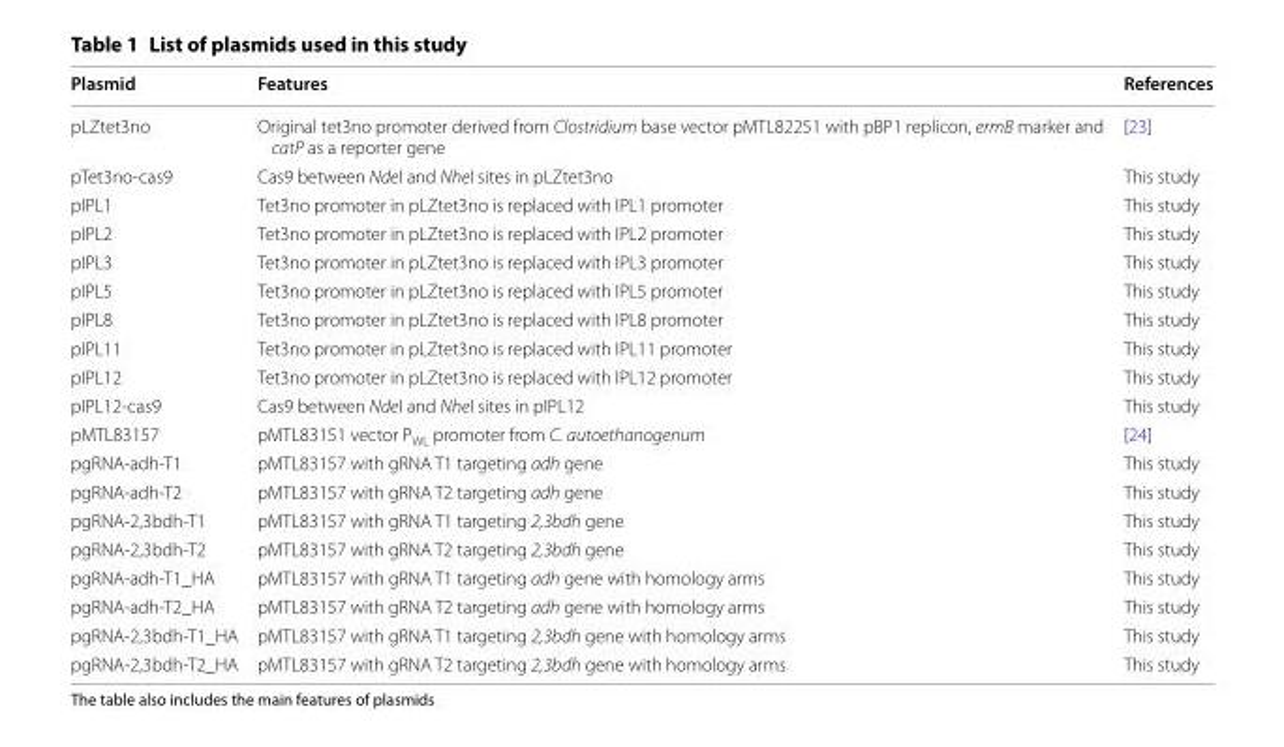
<table><thead><tr><td>Plasmid</td><td>Features</td><td>References</td></tr></thead><tbody><tr><td>pLZtet3no</td><td>Original tet3no promoter derived from Clostridium base vector pMTL82251 with pBP1 replicon, ermB marker and catP as a reporter gene</td><td>[23]</td></tr><tr><td>pTet3no-cas9</td><td>Cas9 between NdeI and NheI sites in pLZtet3no</td><td>This study</td></tr><tr><td>pIPL1</td><td>Tet3no promoter in pLZtet3no is replaced with IPL1 promoter</td><td>This study</td></tr><tr><td>pIPL2</td><td>Tet3no promoter in pLZtet3no is replaced with IPL2 promoter</td><td>This study</td></tr><tr><td>pIPL3</td><td>Tet3no promoter in pLZtet3no is replaced with IPL3 promoter</td><td>This study</td></tr><tr><td>pIPL5</td><td>Tet3no promoter in pLZtet3no is replaced with IPL5 promoter</td><td>This study</td></tr><tr><td>pIPL8</td><td>Tet3no promoter in pLZtet3no is replaced with IPL8 promoter</td><td>This study</td></tr><tr><td>pIPL11</td><td>Tet3no promoter in pLZtet3no is replaced with IPL11 promoter</td><td>This study</td></tr><tr><td>pIPL12</td><td>Tet3no promoter in pLZtet3no is replaced with IPL12 promoter</td><td>This study</td></tr><tr><td>pIPL12-cas9</td><td>Cas9 between NdeI and NheI sites in pIPL12</td><td>This study</td></tr><tr><td>pMTL83157</td><td>pMTL83151 vector P<sub>WL</sub> promoter from C. autoethanogenum</td><td>[24]</td></tr><tr><td>pgRNA-adh-T1</td><td>pMTL83157 with gRNA T1 targeting adh gene</td><td>This study</td></tr><tr><td>pgRNA-adh-T2</td><td>pMTL83157 with gRNA T2 targeting adh gene</td><td>This study</td></tr><tr><td>pgRNA-2,3bdh-T1</td><td>pMTL83157 with gRNA T1 targeting 2,3bdh gene</td><td>This study</td></tr><tr><td>pgRNA-2,3bdh-T2</td><td>pMTL83157 with gRNA T2 targeting 2,3bdh gene</td><td>This study</td></tr><tr><td>pgRNA-adh-T1_HA</td><td>pMTL83157 with gRNA T1 targeting adh gene with homology arms</td><td>This study</td></tr><tr><td>pgRNA-adh-T2_HA</td><td>pMTL83157 with gRNA T2 targeting adh gene with homology arms</td><td>This study</td></tr><tr><td>pgRNA-2,3bdh-T1_HA</td><td>pMTL83157 with gRNA T1 targeting 2,3bdh gene with homology arms</td><td>This study</td></tr><tr><td>pgRNA-2,3bdh-T2_HA</td><td>pMTL83157 with gRNA T2 targeting 2,3bdh gene with homology arms</td><td>This study</td></tr></tbody></table>